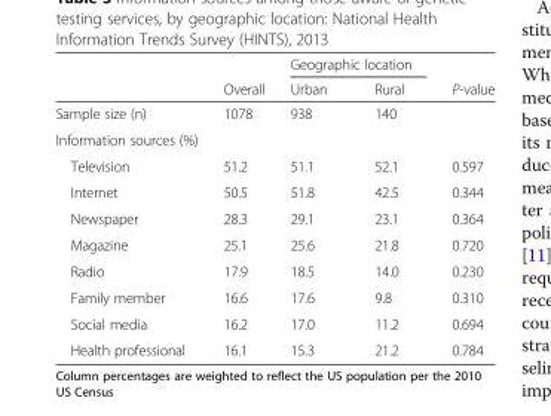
<table><thead><tr><td rowspan="2"></td><td rowspan="2">Overall</td><td colspan="2">Geographic location</td><td rowspan="2">P-value</td></tr><tr><td>Urban</td><td>Rural</td></tr></thead><tbody><tr><td>Sample size (n)</td><td>1078</td><td>938</td><td>140</td><td></td></tr><tr><td colspan="5">Information sources (%)</td></tr><tr><td>Television</td><td>51.2</td><td>51.1</td><td>52.1</td><td>0.597</td></tr><tr><td>Internet</td><td>50.5</td><td>51.8</td><td>42.5</td><td>0.344</td></tr><tr><td>Newspaper</td><td>28.3</td><td>29.1</td><td>23.1</td><td>0.364</td></tr><tr><td>Magazine</td><td>25.1</td><td>25.6</td><td>21.8</td><td>0.720</td></tr><tr><td>Radio</td><td>17.9</td><td>18.5</td><td>14.0</td><td>0.230</td></tr><tr><td>Family member</td><td>16.6</td><td>17.6</td><td>9.8</td><td>0.310</td></tr><tr><td>Social media</td><td>16.2</td><td>17.0</td><td>11.2</td><td>0.694</td></tr><tr><td>Health professional</td><td>16.1</td><td>15.3</td><td>21.2</td><td>0.784</td></tr></tbody></table>